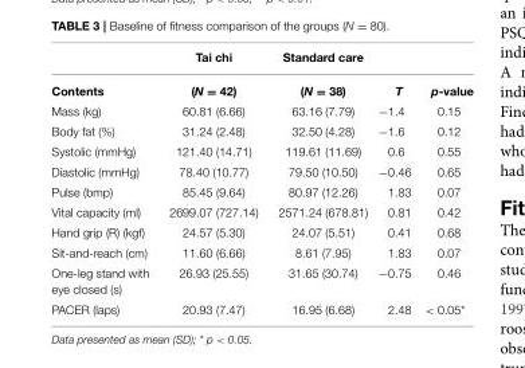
<table><thead><tr><td></td><td>Tai chi</td><td>Standard care</td><td></td><td></td></tr></thead><tbody><tr><td>Contents</td><td>(N = 42)</td><td>(N = 38)</td><td>T</td><td>p-value</td></tr><tr><td>Mass (kg)</td><td>60.81 (6.66)</td><td>63.16 (7.79)</td><td>−1.4</td><td>0.15</td></tr><tr><td>Body fat (%)</td><td>31.24 (2.48)</td><td>32.50 (4.28)</td><td>−1.6</td><td>0.12</td></tr><tr><td>Systolic (mmHg)</td><td>121.40 (14.71)</td><td>119.61 (11.69)</td><td>0.6</td><td>0.55</td></tr><tr><td>Diastolic (mmHg)</td><td>78.40 (10.77)</td><td>79.50 (10.50)</td><td>−0.46</td><td>0.65</td></tr><tr><td>Pulse (bmp)</td><td>85.45 (9.64)</td><td>80.97 (12.26)</td><td>1.83</td><td>0.07</td></tr><tr><td>Vital capacity (ml)</td><td>2699.07 (727.14)</td><td>2571.24 (678.81)</td><td>0.81</td><td>0.42</td></tr><tr><td>Hand grip (R) (kgf)</td><td>24.57 (5.30)</td><td>24.07 (5.51)</td><td>0.41</td><td>0.68</td></tr><tr><td>Sit-and-reach (cm)</td><td>11.60 (6.66)</td><td>8.61 (7.95)</td><td>1.83</td><td>0.07</td></tr><tr><td>One-leg stand with eye closed (s)</td><td>26.93 (25.55)</td><td>31.65 (30.74)</td><td>−0.75</td><td>0.46</td></tr><tr><td>PACER (laps)</td><td>20.93 (7.47)</td><td>16.95 (6.68)</td><td>2.48</td><td>&lt; 0.05*</td></tr></tbody></table>